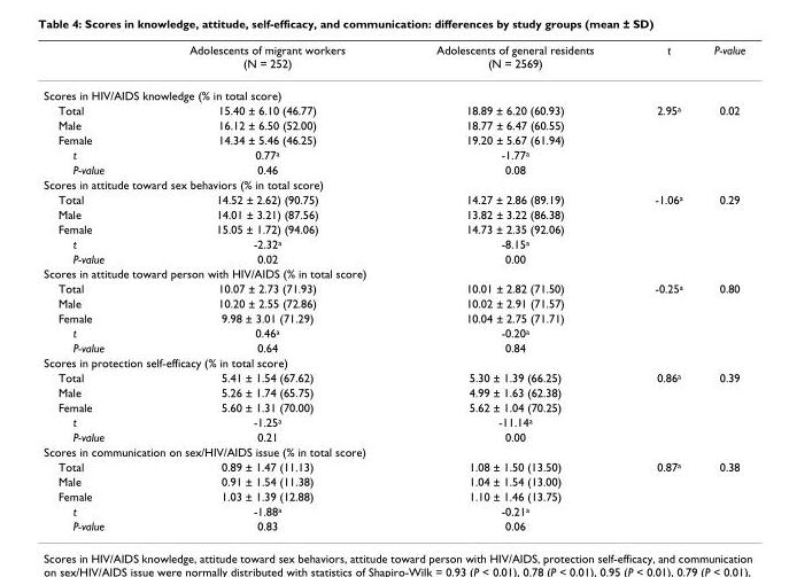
<table><thead><tr><td></td><td>Adolescents of migrant workers (N = 252)</td><td>Adolescents of general residents (N = 2569)</td><td>t</td><td>P-value</td></tr></thead><tbody><tr><td colspan="5">Scores in HIV/AIDS knowledge (% in total score)</td></tr><tr><td>Total</td><td>15.40 ± 6.10 (46.77)</td><td>18.89 ± 6.20 (60.93)</td><td>2.95<sup>a</sup></td><td>0.02</td></tr><tr><td>Male</td><td>16.12 ± 6.50 (52.00)</td><td>18.77 ± 6.47 (60.55)</td><td></td><td></td></tr><tr><td>Female</td><td>14.34 ± 5.46 (46.25)</td><td>19.20 ± 5.67 (61.94)</td><td></td><td></td></tr><tr><td>t</td><td>0.77<sup>a</sup></td><td>-1.77<sup>a</sup></td><td></td><td></td></tr><tr><td>P-value</td><td>0.46</td><td>0.08</td><td></td><td></td></tr><tr><td colspan="5">Scores in attitude toward sex behaviors (% in total score)</td></tr><tr><td>Total</td><td>14.52 ± 2.62) (90.75)</td><td>14.27 ± 2.86 (89.19)</td><td>-1.06<sup>a</sup></td><td>0.29</td></tr><tr><td>Male</td><td>14.01 ± 3.21) (87.56)</td><td>13.82 ± 3.22 (86.38)</td><td></td><td></td></tr><tr><td>Female</td><td>15.05 ± 1.72) (94.06)</td><td>14.73 ± 2.35 (92.06)</td><td></td><td></td></tr><tr><td>t</td><td>-2.32<sup>a</sup></td><td>-8.15<sup>a</sup></td><td></td><td></td></tr><tr><td>P-value</td><td>0.02</td><td>0.00</td><td></td><td></td></tr><tr><td colspan="5">Scores in attitude toward person with HIV/AIDS (% in total score)</td></tr><tr><td>Total</td><td>10.07 ± 2.73 (71.93)</td><td>10.01 ± 2.82 (71.50)</td><td>-0.25<sup>a</sup></td><td>0.80</td></tr><tr><td>Male</td><td>10.20 ± 2.55 (72.86)</td><td>10.02 ± 2.91 (71.57)</td><td></td><td></td></tr><tr><td>Female</td><td>9.98 ± 3.01 (71.29)</td><td>10.04 ± 2.75 (71.71)</td><td></td><td></td></tr><tr><td>t</td><td>0.46<sup>a</sup></td><td>-0.20<sup>a</sup></td><td></td><td></td></tr><tr><td>P-value</td><td>0.64</td><td>0.84</td><td></td><td></td></tr><tr><td colspan="5">Scores in protection self-efficacy (% in total score)</td></tr><tr><td>Total</td><td>5.41 ± 1.54 (67.62)</td><td>5.30 ± 1.39 (66.25)</td><td>0.86<sup>a</sup></td><td>0.39</td></tr><tr><td>Male</td><td>5.26 ± 1.74 (65.75)</td><td>4.99 ± 1.63 (62.38)</td><td></td><td></td></tr><tr><td>Female</td><td>5.60 ± 1.31 (70.00)</td><td>5.62 ± 1.04 (70.25)</td><td></td><td></td></tr><tr><td>t</td><td>-1.25<sup>a</sup></td><td>-11.14<sup>a</sup></td><td></td><td></td></tr><tr><td>P-value</td><td>0.21</td><td>0.00</td><td></td><td></td></tr><tr><td colspan="5">Scores in communication on sex/HIV/AIDS issue (% in total score)</td></tr><tr><td>Total</td><td>0.89 ± 1.47 (11.13)</td><td>1.08 ± 1.50 (13.50)</td><td>0.87<sup>a</sup></td><td>0.38</td></tr><tr><td>Male</td><td>0.91 ± 1.54 (11.38)</td><td>1.04 ± 1.54 (13.00)</td><td></td><td></td></tr><tr><td>Female</td><td>1.03 ± 1.39 (12.88)</td><td>1.10 ± 1.46 (13.75)</td><td></td><td></td></tr><tr><td>t</td><td>-1.88<sup>a</sup></td><td>-0.21<sup>a</sup></td><td></td><td></td></tr><tr><td>P-value</td><td>0.83</td><td>0.06</td><td></td><td></td></tr></tbody></table>